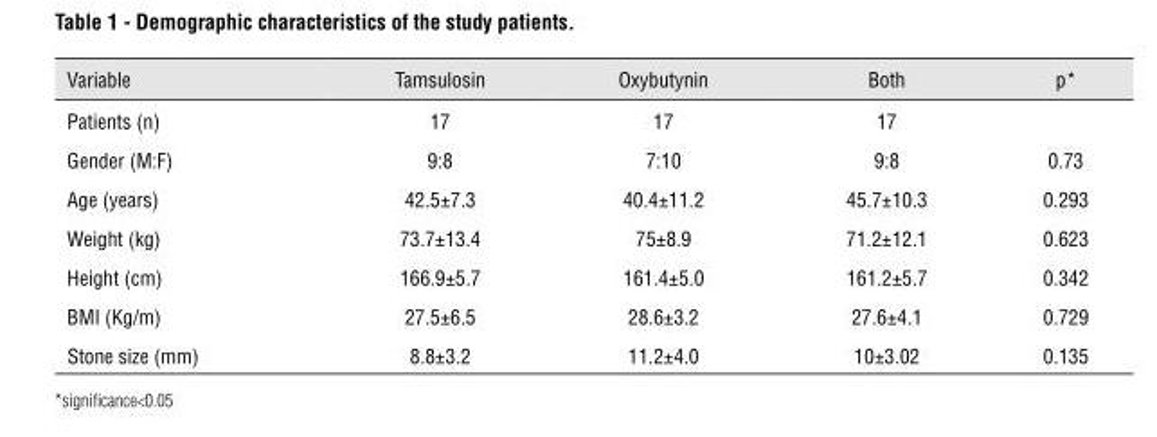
<table><thead><tr><td>Variable</td><td>Tamsulosin</td><td>Oxybutynin</td><td>Both</td><td>p*</td></tr></thead><tbody><tr><td>Patients (n)</td><td>17</td><td>17</td><td>17</td><td></td></tr><tr><td>Gender (M:F)</td><td>9:8</td><td>7:10</td><td>9:8</td><td>0.73</td></tr><tr><td>Age (years)</td><td>42.5±7.3</td><td>40.4±11.2</td><td>45.7±10.3</td><td>0.293</td></tr><tr><td>Weight (kg)</td><td>73.7±13.4</td><td>75±8.9</td><td>71.2±12.1</td><td>0.623</td></tr><tr><td>Height (cm)</td><td>166.9±5.7</td><td>161.4±5.0</td><td>161.2±5.7</td><td>0.342</td></tr><tr><td>BMI (Kg/m)</td><td>27.5±6.5</td><td>28.6±3.2</td><td>27.6±4.1</td><td>0.729</td></tr><tr><td>Stone size (mm)</td><td>8.8±3.2</td><td>11.2±4.0</td><td>10±3.02</td><td>0.135</td></tr></tbody></table>